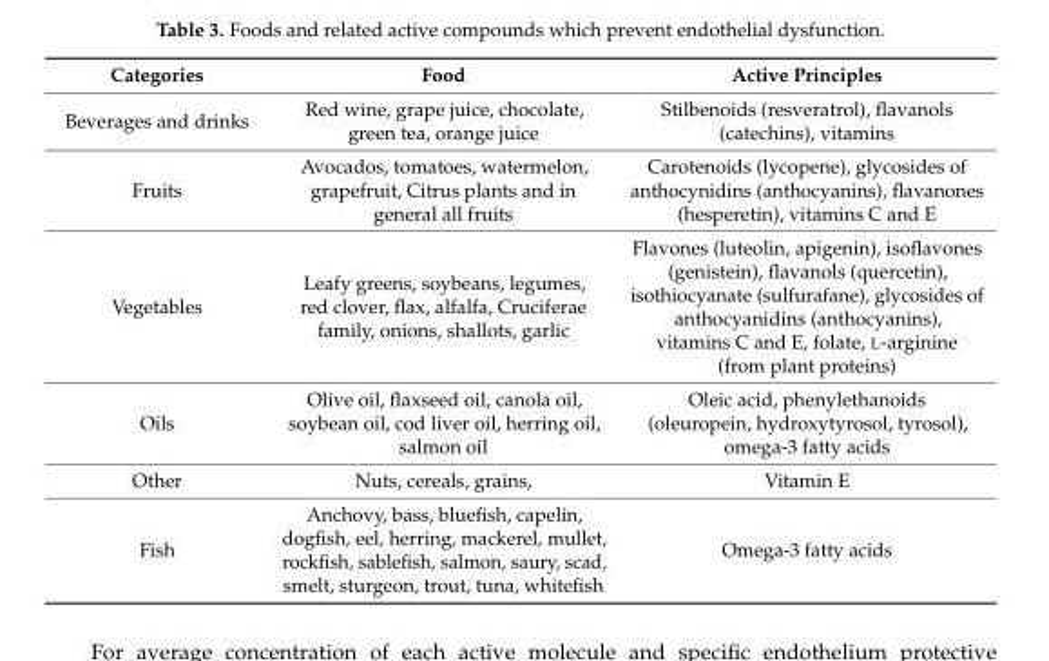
<table><thead><tr><td>Categories</td><td>Food</td><td>Active Principles</td></tr></thead><tbody><tr><td>Beverages and drinks</td><td>Red wine, grape juice, chocolate, green tea, orange juice</td><td>Stilbenoids (resveratrol), flavanols (catechins), vitamins</td></tr><tr><td>Fruits</td><td>Avocados, tomatoes, watermelon, grapefruit, Citrus plants and in general all fruits</td><td>Carotenoids (lycopene), glycosides of anthocynidins (anthocyanins), flavanones (hesperetin), vitamins C and E</td></tr><tr><td>Vegetables</td><td>Leafy greens, soybeans, legumes, red clover, flax, alfalfa, Cruciferae family, onions, shallots, garlic</td><td>Flavones (luteolin, apigenin), isoflavones (genistein), flavanols (quercetin), isothiocyanate (sulfurafane), glycosides of anthocyanidins (anthocyanins), vitamins C and E, folate, L-arginine (from plant proteins)</td></tr><tr><td>Oils</td><td>Olive oil, flaxseed oil, canola oil, soybean oil, cod liver oil, herring oil, salmon oil</td><td>Oleic acid, phenylethanoids (oleuropein, hydroxytyrosol, tyrosol), omega-3 fatty acids</td></tr><tr><td>Other</td><td>Nuts, cereals, grains,</td><td>Vitamin E</td></tr><tr><td>Fish</td><td>Anchovy, bass, bluefish, capelin, dogfish, eel, herring, mackerel, mullet, rockfish, sablefish, salmon, saury, scad, smelt, sturgeon, trout, tuna, whitefish</td><td>Omega-3 fatty acids</td></tr></tbody></table>